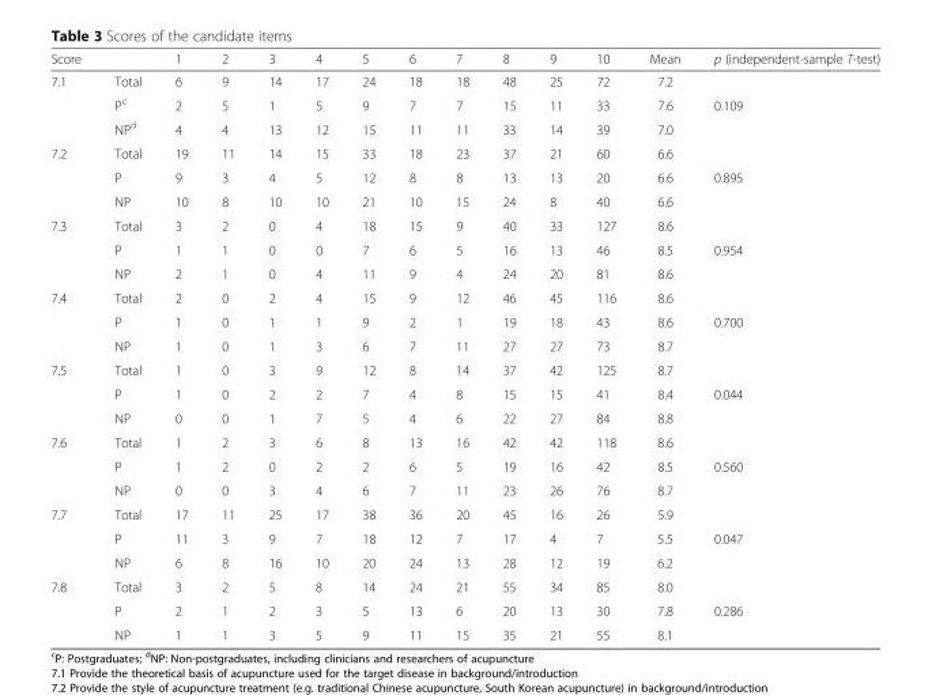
<table><thead><tr><td>Score</td><td></td><td>1</td><td>2</td><td>3</td><td>4</td><td>5</td><td>6</td><td>7</td><td>8</td><td>9</td><td>10</td><td>Mean</td><td>p (independent-sample T-test)</td></tr></thead><tbody><tr><td rowspan="3">7.1</td><td>Total</td><td>6</td><td>9</td><td>14</td><td>17</td><td>24</td><td>18</td><td>18</td><td>48</td><td>25</td><td>72</td><td>7.2</td><td></td></tr><tr><td>P<sup>c</sup></td><td>2</td><td>5</td><td>1</td><td>5</td><td>9</td><td>7</td><td>7</td><td>15</td><td>11</td><td>33</td><td>7.6</td><td>0.109</td></tr><tr><td>NP<sup>d</sup></td><td>4</td><td>4</td><td>13</td><td>12</td><td>15</td><td>11</td><td>11</td><td>33</td><td>14</td><td>39</td><td>7.0</td><td></td></tr><tr><td rowspan="3">7.2</td><td>Total</td><td>19</td><td>11</td><td>14</td><td>15</td><td>33</td><td>18</td><td>23</td><td>37</td><td>21</td><td>60</td><td>6.6</td><td></td></tr><tr><td>P</td><td>9</td><td>3</td><td>4</td><td>5</td><td>12</td><td>8</td><td>8</td><td>13</td><td>13</td><td>20</td><td>6.6</td><td>0.895</td></tr><tr><td>NP</td><td>10</td><td>8</td><td>10</td><td>10</td><td>21</td><td>10</td><td>15</td><td>24</td><td>8</td><td>40</td><td>6.6</td><td></td></tr><tr><td rowspan="3">7.3</td><td>Total</td><td>3</td><td>2</td><td>0</td><td>4</td><td>18</td><td>15</td><td>9</td><td>40</td><td>33</td><td>127</td><td>8.6</td><td></td></tr><tr><td>P</td><td>1</td><td>1</td><td>0</td><td>0</td><td>7</td><td>6</td><td>5</td><td>16</td><td>13</td><td>46</td><td>8.5</td><td>0.954</td></tr><tr><td>NP</td><td>2</td><td>1</td><td>0</td><td>4</td><td>11</td><td>9</td><td>4</td><td>24</td><td>20</td><td>81</td><td>8.6</td><td></td></tr><tr><td rowspan="3">7.4</td><td>Total</td><td>2</td><td>0</td><td>2</td><td>4</td><td>15</td><td>9</td><td>12</td><td>46</td><td>45</td><td>116</td><td>8.6</td><td></td></tr><tr><td>P</td><td>1</td><td>0</td><td>1</td><td>1</td><td>9</td><td>2</td><td>1</td><td>19</td><td>18</td><td>43</td><td>8.6</td><td>0.700</td></tr><tr><td>NP</td><td>1</td><td>0</td><td>1</td><td>3</td><td>6</td><td>7</td><td>11</td><td>27</td><td>27</td><td>73</td><td>8.7</td><td></td></tr><tr><td rowspan="3">7.5</td><td>Total</td><td>1</td><td>0</td><td>3</td><td>9</td><td>12</td><td>8</td><td>14</td><td>37</td><td>42</td><td>125</td><td>8.7</td><td></td></tr><tr><td>P</td><td>1</td><td>0</td><td>2</td><td>2</td><td>7</td><td>4</td><td>8</td><td>15</td><td>15</td><td>41</td><td>8.4</td><td>0.044</td></tr><tr><td>NP</td><td>0</td><td>0</td><td>1</td><td>7</td><td>5</td><td>4</td><td>6</td><td>22</td><td>27</td><td>84</td><td>8.8</td><td></td></tr><tr><td rowspan="3">7.6</td><td>Total</td><td>1</td><td>2</td><td>3</td><td>6</td><td>8</td><td>13</td><td>16</td><td>42</td><td>42</td><td>118</td><td>8.6</td><td></td></tr><tr><td>P</td><td>1</td><td>2</td><td>0</td><td>2</td><td>2</td><td>6</td><td>5</td><td>19</td><td>16</td><td>42</td><td>8.5</td><td>0.560</td></tr><tr><td>NP</td><td>0</td><td>0</td><td>3</td><td>4</td><td>6</td><td>7</td><td>11</td><td>23</td><td>26</td><td>76</td><td>8.7</td><td></td></tr><tr><td rowspan="3">7.7</td><td>Total</td><td>17</td><td>11</td><td>25</td><td>17</td><td>38</td><td>36</td><td>20</td><td>45</td><td>16</td><td>26</td><td>5.9</td><td></td></tr><tr><td>P</td><td>11</td><td>3</td><td>9</td><td>7</td><td>18</td><td>12</td><td>7</td><td>17</td><td>4</td><td>7</td><td>5.5</td><td>0.047</td></tr><tr><td>NP</td><td>6</td><td>8</td><td>16</td><td>10</td><td>20</td><td>24</td><td>13</td><td>28</td><td>12</td><td>19</td><td>6.2</td><td></td></tr><tr><td rowspan="3">7.8</td><td>Total</td><td>3</td><td>2</td><td>5</td><td>8</td><td>14</td><td>24</td><td>21</td><td>55</td><td>34</td><td>85</td><td>8.0</td><td></td></tr><tr><td>P</td><td>2</td><td>1</td><td>2</td><td>3</td><td>5</td><td>13</td><td>6</td><td>20</td><td>13</td><td>30</td><td>7.8</td><td>0.286</td></tr><tr><td>NP</td><td>1</td><td>1</td><td>3</td><td>5</td><td>9</td><td>11</td><td>15</td><td>35</td><td>21</td><td>55</td><td>8.1</td><td></td></tr></tbody></table>